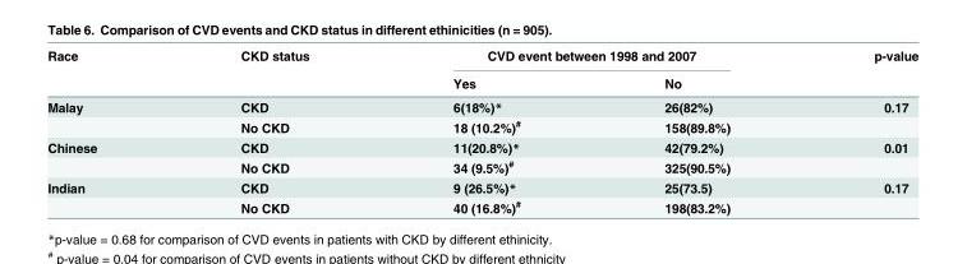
<table><thead><tr><td rowspan="2">Race</td><td rowspan="2">CKD status</td><td colspan="2">CVD event between 1998 and 2007</td><td rowspan="2">p-value</td></tr><tr><td>Yes</td><td>No</td></tr></thead><tbody><tr><td rowspan="2">Malay</td><td>CKD</td><td>6(18%)*</td><td>26(82%)</td><td>0.17</td></tr><tr><td>No CKD</td><td>18 (10.2%)<sup>#</sup></td><td>158(89.8%)</td><td></td></tr><tr><td rowspan="2">Chinese</td><td>CKD</td><td>11(20.8%)*</td><td>42(79.2%)</td><td>0.01</td></tr><tr><td>No CKD</td><td>34 (9.5%)<sup>#</sup></td><td>325(90.5%)</td><td></td></tr><tr><td rowspan="2">Indian</td><td>CKD</td><td>9 (26.5%)*</td><td>25(73.5)</td><td>0.17</td></tr><tr><td>No CKD</td><td>40 (16.8%)<sup>#</sup></td><td>198(83.2%)</td><td></td></tr></tbody></table>